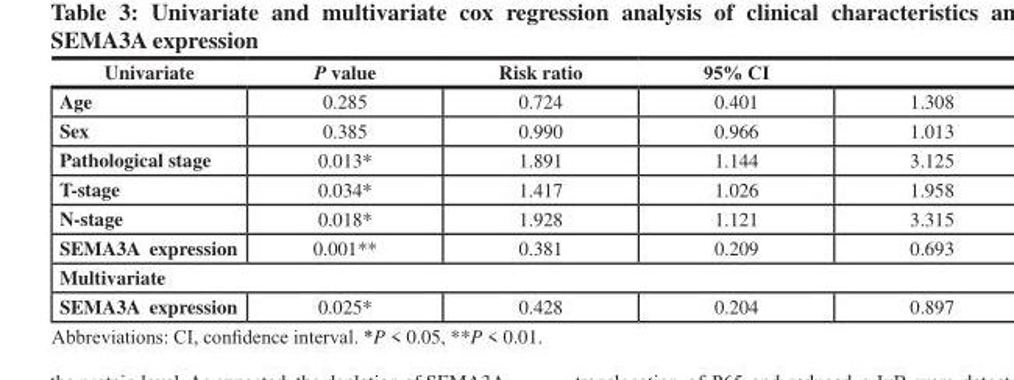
<table><thead><tr><td>Univariate</td><td>P value</td><td>Risk ratio</td><td>95% CI</td><td></td></tr></thead><tbody><tr><td>Age</td><td>0.285</td><td>0.724</td><td>0.401</td><td>1.308</td></tr><tr><td>Sex</td><td>0.385</td><td>0.990</td><td>0.966</td><td>1.013</td></tr><tr><td>Pathological stage</td><td>0.013*</td><td>1.891</td><td>1.144</td><td>3.125</td></tr><tr><td>T-stage</td><td>0.034*</td><td>1.417</td><td>1.026</td><td>1.958</td></tr><tr><td>N-stage</td><td>0.018*</td><td>1.928</td><td>1.121</td><td>3.315</td></tr><tr><td>SEMA3A expression</td><td>0.001**</td><td>0.381</td><td>0.209</td><td>0.693</td></tr><tr><td colspan="5">Multivariate</td></tr><tr><td>SEMA3A expression</td><td>0.025*</td><td>0.428</td><td>0.204</td><td>0.897</td></tr></tbody></table>